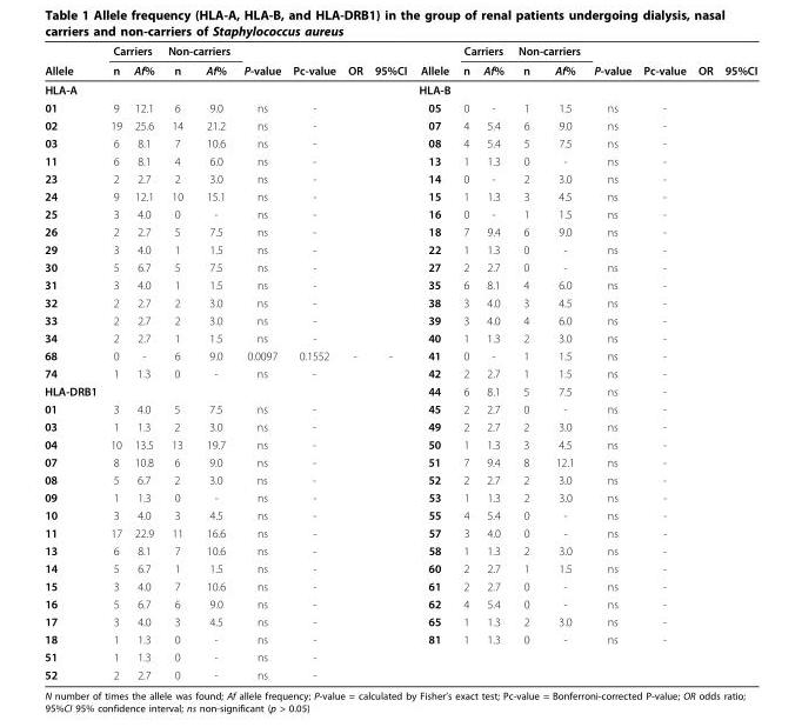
<table><thead><tr><td rowspan="2">Allele</td><td colspan="2">Carriers</td><td colspan="2">Non-carriers</td><td rowspan="2">P-value</td><td rowspan="2">Pc-value</td><td rowspan="2">OR</td><td rowspan="2">95%CI</td><td rowspan="2">Allele</td><td colspan="2">Carriers</td><td colspan="2">Non-carriers</td><td rowspan="2">P-value</td><td rowspan="2">Pc-value</td><td rowspan="2">OR</td><td rowspan="2">95%CI</td></tr><tr><td>n</td><td>Af%</td><td>n</td><td>Af%</td><td>n</td><td>Af%</td><td>n</td><td>Af%</td></tr></thead><tbody><tr><td>HLA-A</td><td></td><td></td><td></td><td></td><td></td><td></td><td></td><td></td><td>HLA-B</td><td></td><td></td><td></td><td></td><td></td><td></td><td></td><td></td></tr><tr><td>01</td><td>9</td><td>12.1</td><td>6</td><td>9.0</td><td>ns</td><td>-</td><td></td><td></td><td>05</td><td>0</td><td>-</td><td>1</td><td>1.5</td><td>ns</td><td>-</td><td></td><td></td></tr><tr><td>02</td><td>19</td><td>25.6</td><td>14</td><td>21.2</td><td>ns</td><td>-</td><td></td><td></td><td>07</td><td>4</td><td>5.4</td><td>6</td><td>9.0</td><td>ns</td><td>-</td><td></td><td></td></tr><tr><td>03</td><td>6</td><td>8.1</td><td>7</td><td>10.6</td><td>ns</td><td>-</td><td></td><td></td><td>08</td><td>4</td><td>5.4</td><td>5</td><td>7.5</td><td>ns</td><td>-</td><td></td><td></td></tr><tr><td>11</td><td>6</td><td>8.1</td><td>4</td><td>6.0</td><td>ns</td><td>-</td><td></td><td></td><td>13</td><td>1</td><td>1.3</td><td>0</td><td>-</td><td>ns</td><td>-</td><td></td><td></td></tr><tr><td>23</td><td>2</td><td>2.7</td><td>2</td><td>3.0</td><td>ns</td><td>-</td><td></td><td></td><td>14</td><td>0</td><td>-</td><td>2</td><td>3.0</td><td>ns</td><td>-</td><td></td><td></td></tr><tr><td>24</td><td>9</td><td>12.1</td><td>10</td><td>15.1</td><td>ns</td><td>-</td><td></td><td></td><td>15</td><td>1</td><td>1.3</td><td>3</td><td>4.5</td><td>ns</td><td>-</td><td></td><td></td></tr><tr><td>25</td><td>3</td><td>4.0</td><td>0</td><td>-</td><td>ns</td><td>-</td><td></td><td></td><td>16</td><td>0</td><td>-</td><td>1</td><td>1.5</td><td>ns</td><td>-</td><td></td><td></td></tr><tr><td>26</td><td>2</td><td>2.7</td><td>5</td><td>7.5</td><td>ns</td><td>-</td><td></td><td></td><td>18</td><td>7</td><td>9.4</td><td>6</td><td>9.0</td><td>ns</td><td>-</td><td></td><td></td></tr><tr><td>29</td><td>3</td><td>4.0</td><td>1</td><td>1.5</td><td>ns</td><td>-</td><td></td><td></td><td>22</td><td>1</td><td>1.3</td><td>0</td><td>-</td><td>ns</td><td>-</td><td></td><td></td></tr><tr><td>30</td><td>5</td><td>6.7</td><td>5</td><td>7.5</td><td>ns</td><td>-</td><td></td><td></td><td>27</td><td>2</td><td>2.7</td><td>0</td><td>-</td><td>ns</td><td>-</td><td></td><td></td></tr><tr><td>31</td><td>3</td><td>4.0</td><td>1</td><td>1.5</td><td>ns</td><td>-</td><td></td><td></td><td>35</td><td>6</td><td>8.1</td><td>4</td><td>6.0</td><td>ns</td><td>-</td><td></td><td></td></tr><tr><td>32</td><td>2</td><td>2.7</td><td>2</td><td>3.0</td><td>ns</td><td>-</td><td></td><td></td><td>38</td><td>3</td><td>4.0</td><td>3</td><td>4.5</td><td>ns</td><td>-</td><td></td><td></td></tr><tr><td>33</td><td>2</td><td>2.7</td><td>2</td><td>3.0</td><td>ns</td><td>-</td><td></td><td></td><td>39</td><td>3</td><td>4.0</td><td>4</td><td>6.0</td><td>ns</td><td>-</td><td></td><td></td></tr><tr><td>34</td><td>2</td><td>2.7</td><td>1</td><td>1.5</td><td>ns</td><td>-</td><td></td><td></td><td>40</td><td>1</td><td>1.3</td><td>2</td><td>3.0</td><td>ns</td><td>-</td><td></td><td></td></tr><tr><td>68</td><td>0</td><td>-</td><td>6</td><td>9.0</td><td>0.0097</td><td>0.1552</td><td>-</td><td>-</td><td>41</td><td>0</td><td>-</td><td>1</td><td>1.5</td><td>ns</td><td>-</td><td></td><td></td></tr><tr><td>74</td><td>1</td><td>1.3</td><td>0</td><td>-</td><td>ns</td><td>-</td><td></td><td></td><td>42</td><td>2</td><td>2.7</td><td>1</td><td>1.5</td><td>ns</td><td>-</td><td></td><td></td></tr><tr><td>HLA-DRB1</td><td></td><td></td><td></td><td></td><td></td><td></td><td></td><td></td><td>44</td><td>6</td><td>8.1</td><td>5</td><td>7.5</td><td>ns</td><td>-</td><td></td><td></td></tr><tr><td>01</td><td>3</td><td>4.0</td><td>5</td><td>7.5</td><td>ns</td><td>-</td><td></td><td></td><td>45</td><td>2</td><td>2.7</td><td>0</td><td>-</td><td>ns</td><td>-</td><td></td><td></td></tr><tr><td>03</td><td>1</td><td>1.3</td><td>2</td><td>3.0</td><td>ns</td><td>-</td><td></td><td></td><td>49</td><td>2</td><td>2.7</td><td>2</td><td>3.0</td><td>ns</td><td>-</td><td></td><td></td></tr><tr><td>04</td><td>10</td><td>13.5</td><td>13</td><td>19.7</td><td>ns</td><td>-</td><td></td><td></td><td>50</td><td>1</td><td>1.3</td><td>3</td><td>4.5</td><td>ns</td><td>-</td><td></td><td></td></tr><tr><td>07</td><td>8</td><td>10.8</td><td>6</td><td>9.0</td><td>ns</td><td>-</td><td></td><td></td><td>51</td><td>7</td><td>9.4</td><td>8</td><td>12.1</td><td>ns</td><td>-</td><td></td><td></td></tr><tr><td>08</td><td>5</td><td>6.7</td><td>2</td><td>3.0</td><td>ns</td><td>-</td><td></td><td></td><td>52</td><td>2</td><td>2.7</td><td>2</td><td>3.0</td><td>ns</td><td>-</td><td></td><td></td></tr><tr><td>09</td><td>1</td><td>1.3</td><td>0</td><td>-</td><td>ns</td><td>-</td><td></td><td></td><td>53</td><td>1</td><td>1.3</td><td>2</td><td>3.0</td><td>ns</td><td>-</td><td></td><td></td></tr><tr><td>10</td><td>3</td><td>4.0</td><td>3</td><td>4.5</td><td>ns</td><td>-</td><td></td><td></td><td>55</td><td>4</td><td>5.4</td><td>0</td><td>-</td><td>ns</td><td>-</td><td></td><td></td></tr><tr><td>11</td><td>17</td><td>22.9</td><td>11</td><td>16.6</td><td>ns</td><td>-</td><td></td><td></td><td>57</td><td>3</td><td>4.0</td><td>0</td><td>-</td><td>ns</td><td>-</td><td></td><td></td></tr><tr><td>13</td><td>6</td><td>8.1</td><td>7</td><td>10.6</td><td>ns</td><td>-</td><td></td><td></td><td>58</td><td>1</td><td>1.3</td><td>2</td><td>3.0</td><td>ns</td><td>-</td><td></td><td></td></tr><tr><td>14</td><td>5</td><td>6.7</td><td>1</td><td>1.5</td><td>ns</td><td>-</td><td></td><td></td><td>60</td><td>2</td><td>2.7</td><td>1</td><td>1.5</td><td>ns</td><td>-</td><td></td><td></td></tr><tr><td>15</td><td>3</td><td>4.0</td><td>7</td><td>10.6</td><td>ns</td><td>-</td><td></td><td></td><td>61</td><td>2</td><td>2.7</td><td>0</td><td>-</td><td>ns</td><td>-</td><td></td><td></td></tr><tr><td>16</td><td>5</td><td>6.7</td><td>6</td><td>9.0</td><td>ns</td><td>-</td><td></td><td></td><td>62</td><td>4</td><td>5.4</td><td>0</td><td>-</td><td>ns</td><td>-</td><td></td><td></td></tr><tr><td>17</td><td>3</td><td>4.0</td><td>3</td><td>4.5</td><td>ns</td><td>-</td><td></td><td></td><td>65</td><td>1</td><td>1.3</td><td>2</td><td>3.0</td><td>ns</td><td>-</td><td></td><td></td></tr><tr><td>18</td><td>1</td><td>1.3</td><td>0</td><td>-</td><td>ns</td><td>-</td><td></td><td></td><td>81</td><td>1</td><td>1.3</td><td>0</td><td>-</td><td>ns</td><td>-</td><td></td><td></td></tr><tr><td>51</td><td>1</td><td>1.3</td><td>0</td><td>-</td><td>ns</td><td>-</td><td></td><td></td><td></td><td></td><td></td><td></td><td></td><td></td><td></td><td></td><td></td></tr><tr><td>52</td><td>2</td><td>2.7</td><td>0</td><td>-</td><td>ns</td><td>-</td><td></td><td></td><td></td><td></td><td></td><td></td><td></td><td></td><td></td><td></td><td></td></tr></tbody></table>